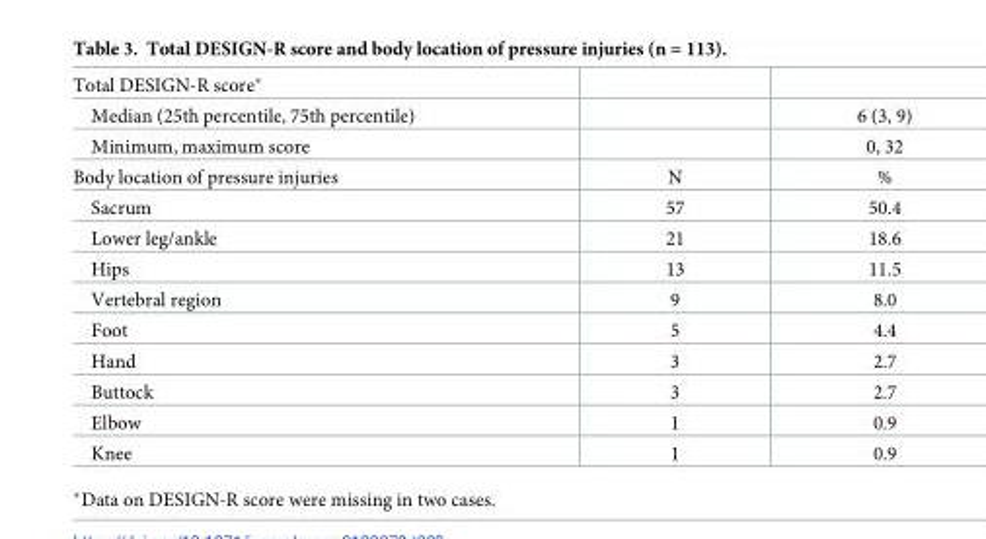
<table><tbody><tr><td colspan="3">Total DESIGN-R score*</td></tr><tr><td>Median (25th percentile, 75th percentile)</td><td></td><td>6 (3, 9)</td></tr><tr><td>Minimum, maximum score</td><td></td><td>0, 32</td></tr><tr><td>Body location of pressure injuries</td><td>N</td><td>%</td></tr><tr><td>Sacrum</td><td>57</td><td>50.4</td></tr><tr><td>Lower leg/ankle</td><td>21</td><td>18.6</td></tr><tr><td>Hips</td><td>13</td><td>11.5</td></tr><tr><td>Vertebral region</td><td>9</td><td>8.0</td></tr><tr><td>Foot</td><td>5</td><td>4.4</td></tr><tr><td>Hand</td><td>3</td><td>2.7</td></tr><tr><td>Buttock</td><td>3</td><td>2.7</td></tr><tr><td>Elbow</td><td>1</td><td>0.9</td></tr><tr><td>Knee</td><td>1</td><td>0.9</td></tr></tbody></table>